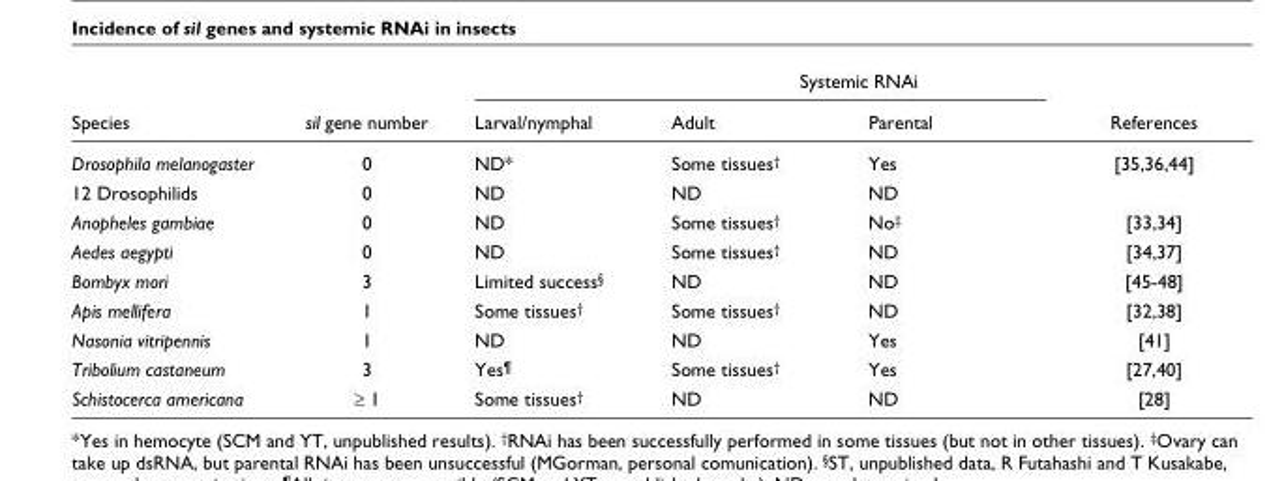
<table><thead><tr><td rowspan="2">Species</td><td rowspan="2">sil gene number</td><td colspan="4">Systemic RNAi</td></tr><tr><td>Larval/nymphal</td><td>Adult</td><td>Parental</td><td>References</td></tr></thead><tbody><tr><td>Drosophila melanogaster</td><td>0</td><td>ND*</td><td>Some tissues<sup>†</sup></td><td>Yes</td><td>[35,36,44]</td></tr><tr><td>12 Drosophilids</td><td>0</td><td>ND</td><td>ND</td><td>ND</td><td></td></tr><tr><td>Anopheles gambiae</td><td>0</td><td>ND</td><td>Some tissues<sup>†</sup></td><td>No<sup>‡</sup></td><td>[33,34]</td></tr><tr><td>Aedes aegypti</td><td>0</td><td>ND</td><td>Some tissues<sup>†</sup></td><td>ND</td><td>[34,37]</td></tr><tr><td>Bombyx mori</td><td>3</td><td>Limited success<sup>§</sup></td><td>ND</td><td>ND</td><td>[45-48]</td></tr><tr><td>Apis mellifera</td><td>1</td><td>Some tissues<sup>†</sup></td><td>Some tissues<sup>†</sup></td><td>ND</td><td>[32,38]</td></tr><tr><td>Nasonia vitripennis</td><td>1</td><td>ND</td><td>ND</td><td>Yes</td><td>[41]</td></tr><tr><td>Tribolium castaneum</td><td>3</td><td>Yes<sup>¶</sup></td><td>Some tissues<sup>†</sup></td><td>Yes</td><td>[27,40]</td></tr><tr><td>Schistocerca americana</td><td>≥ 1</td><td>Some tissues<sup>†</sup></td><td>ND</td><td>ND</td><td>[28]</td></tr></tbody></table>